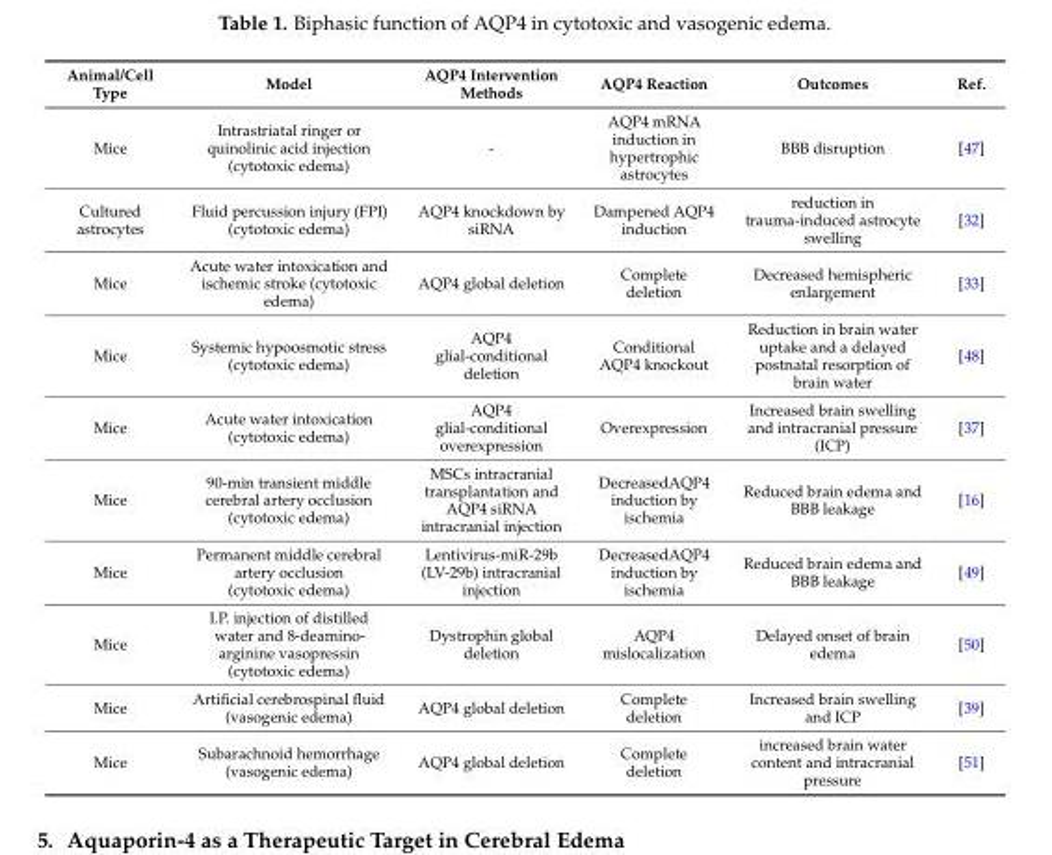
<table><thead><tr><td>Animal/Cell Type</td><td>Model</td><td>AQP4 Intervention Methods</td><td>AQP4 Reaction</td><td>Outcomes</td><td>Ref.</td></tr></thead><tbody><tr><td>Mice</td><td>Intrastriatal ringer or quinolinic acid injection (cytotoxic edema)</td><td>-</td><td>AQP4 mRNA induction in hypertrophic astrocytes</td><td>BBB disruption</td><td>[47]</td></tr><tr><td>Cultured astrocytes</td><td>Fluid percussion injury (FPI) (cytotoxic edema)</td><td>AQP4 knockdown by siRNA</td><td>Dampened AQP4 induction</td><td>reduction in trauma-induced astrocyte swelling</td><td>[32]</td></tr><tr><td>Mice</td><td>Acute water intoxication and ischemic stroke (cytotoxic edema)</td><td>AQP4 global deletion</td><td>Complete deletion</td><td>Decreased hemispheric enlargement</td><td>[33]</td></tr><tr><td>Mice</td><td>Systemic hypoosmotic stress (cytotoxic edema)</td><td>AQP4 glial-conditional deletion</td><td>Conditional AQP4 knockout</td><td>Reduction in brain water uptake and a delayed postnatal resorption of brain water</td><td>[48]</td></tr><tr><td>Mice</td><td>Acute water intoxication (cytotoxic edema)</td><td>AQP4 glial-conditional overexpression</td><td>Overexpression</td><td>Increased brain swelling and intracranial pressure (ICP)</td><td>[37]</td></tr><tr><td>Mice</td><td>90-min transient middle cerebral artery occlusion (cytotoxic edema)</td><td>MSCs intracranial transplantation and AQP4 siRNA intracranial injection</td><td>DecreasedAQP4 induction by ischemia</td><td>Reduced brain edema and BBB leakage</td><td>[16]</td></tr><tr><td>Mice</td><td>Permanent middle cerebral artery occlusion (cytotoxic edema)</td><td>Lentivirus-miR-29b (LV-29b) intracranial injection</td><td>DecreasedAQP4 induction by ischemia</td><td>Reduced brain edema and BBB leakage</td><td>[49]</td></tr><tr><td>Mice</td><td>I.P. injection of distilled water and 8-deamino- arginine vasopressin (cytotoxic edema)</td><td>Dystrophin global deletion</td><td>AQP4 mislocalization</td><td>Delayed onset of brain edema</td><td>[50]</td></tr><tr><td>Mice</td><td>Artificial cerebrospinal fluid (vasogenic edema)</td><td>AQP4 global deletion</td><td>Complete deletion</td><td>Increased brain swelling and ICP</td><td>[39]</td></tr><tr><td>Mice</td><td>Subarachnoid hemorrhage (vasogenic edema)</td><td>AQP4 global deletion</td><td>Complete deletion</td><td>increased brain water content and intracranial pressure</td><td>[51]</td></tr></tbody></table>